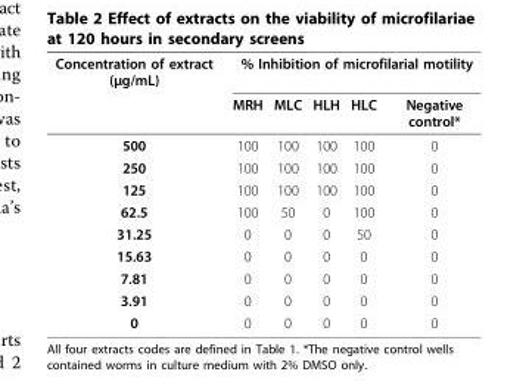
<table><thead><tr><td rowspan="2">Concentration of extract (μg/mL)</td><td colspan="5">% Inhibition of microfilarial motility</td></tr><tr><td>MRH</td><td>MLC</td><td>HLH</td><td>HLC</td><td>Negative control*</td></tr></thead><tbody><tr><td>500</td><td>100</td><td>100</td><td>100</td><td>100</td><td>0</td></tr><tr><td>250</td><td>100</td><td>100</td><td>100</td><td>100</td><td>0</td></tr><tr><td>125</td><td>100</td><td>100</td><td>100</td><td>100</td><td>0</td></tr><tr><td>62.5</td><td>100</td><td>50</td><td>0</td><td>100</td><td>0</td></tr><tr><td>31.25</td><td>0</td><td>0</td><td>0</td><td>50</td><td>0</td></tr><tr><td>15.63</td><td>0</td><td>0</td><td>0</td><td>0</td><td>0</td></tr><tr><td>7.81</td><td>0</td><td>0</td><td>0</td><td>0</td><td>0</td></tr><tr><td>3.91</td><td>0</td><td>0</td><td>0</td><td>0</td><td>0</td></tr><tr><td>0</td><td>0</td><td>0</td><td>0</td><td>0</td><td>0</td></tr></tbody></table>